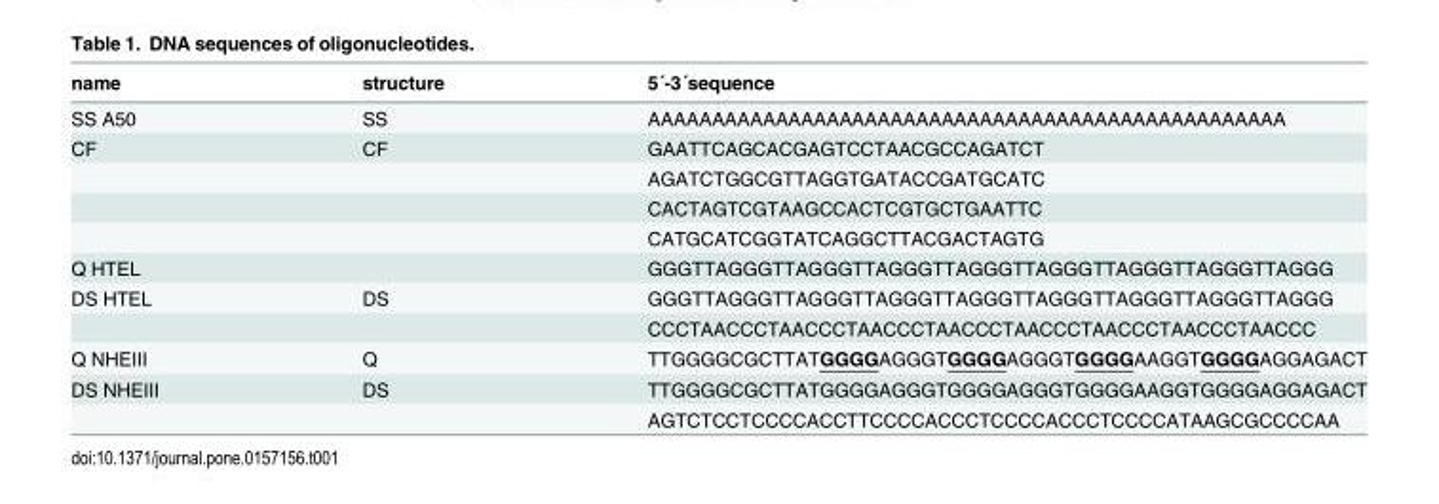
<table><thead><tr><td>name</td><td>structure</td><td>5´-3´sequence</td></tr></thead><tbody><tr><td>SS A50</td><td>SS</td><td>AAAAAAAAAAAAAAAAAAAAAAAAAAAAAAAAAAAAAAAAAAAAAAAAAA</td></tr><tr><td rowspan="4">CF</td><td>CF</td><td>GAATTCAGCACGAGTCCTAACGCCAGATCT</td></tr><tr><td></td><td>AGATCTGGCGTTAGGTGATACCGATGCATC</td></tr><tr><td></td><td>CACTAGTCGTAAGCCACTCGTGCTGAATTC</td></tr><tr><td></td><td>CATGCATCGGTATCAGGCTTACGACTAGTG</td></tr><tr><td>Q HTEL</td><td></td><td>GGGTTAGGGTTAGGGTTAGGGTTAGGGTTAGGGTTAGGGTTAGGGTTAGGG</td></tr><tr><td rowspan="2">DS HTEL</td><td>DS</td><td>GGGTTAGGGTTAGGGTTAGGGTTAGGGTTAGGGTTAGGGTTAGGGTTAGGG</td></tr><tr><td></td><td>CCCTAACCCTAACCCTAACCCTAACCCTAACCCTAACCCTAACCCTAACCC</td></tr><tr><td>Q NHEIII</td><td>Q</td><td>TTGGGGCGCTTATGGGGAGGGTGGGGAGGGTGGGGAAGGTGGGGAGGAGACT</td></tr><tr><td rowspan="2">DS NHEIII</td><td>DS</td><td>TTGGGGCGCTTATGGGGAGGGTGGGGAGGGTGGGGAAGGTGGGGAGGAGACT</td></tr><tr><td></td><td>AGTCTCCTCCCCACCTTCCCCACCCTCCCCACCCTCCCCATAAGCGCCCCAA</td></tr></tbody></table>